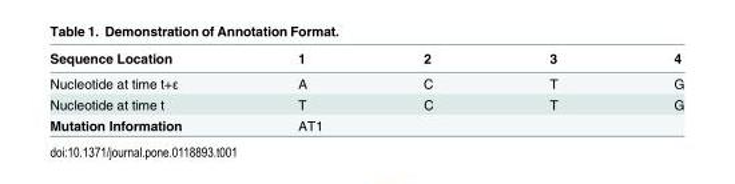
<table><thead><tr><td>Sequence Location</td><td>1</td><td>2</td><td>3</td><td>4</td></tr></thead><tbody><tr><td>Nucleotide at time t+ε</td><td>A</td><td>C</td><td>T</td><td>G</td></tr><tr><td>Nucleotide at time t</td><td>T</td><td>C</td><td>T</td><td>G</td></tr><tr><td>Mutation Information</td><td colspan="4">AT1</td></tr></tbody></table>